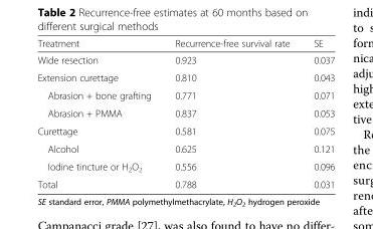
<table><thead><tr><td>Treatment</td><td>Recurrence-free survival rate</td><td>SE</td></tr></thead><tbody><tr><td>Wide resection</td><td>0.923</td><td>0.037</td></tr><tr><td>Extension curettage</td><td>0.810</td><td>0.043</td></tr><tr><td>Abrasion + bone grafting</td><td>0.771</td><td>0.071</td></tr><tr><td>Abrasion + PMMA</td><td>0.837</td><td>0.053</td></tr><tr><td>Curettage</td><td>0.581</td><td>0.075</td></tr><tr><td>Alcohol</td><td>0.625</td><td>0.121</td></tr><tr><td>Iodine tincture or H<sub>2</sub>O<sub>2</sub></td><td>0.556</td><td>0.096</td></tr><tr><td>Total</td><td>0.788</td><td>0.031</td></tr></tbody></table>